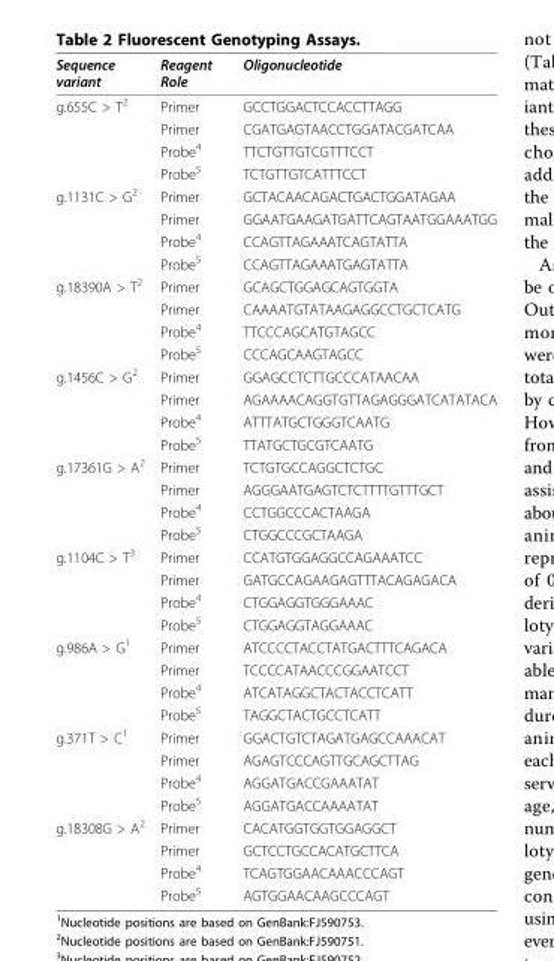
<table><thead><tr><td>Sequence variant</td><td>Reagent Role</td><td>Oligonucleotide</td></tr></thead><tbody><tr><td rowspan="4">g.655C &gt; T<sup>2</sup></td><td>Primer</td><td>GCCTGGACTCCACCTTAGG</td></tr><tr><td>Primer</td><td>CGATGAGTAACCTGGATACGATCAA</td></tr><tr><td>Probe<sup>4</sup></td><td>TTCTGTTGTCGTTTCCT</td></tr><tr><td>Probe<sup>5</sup></td><td>TCTGTTGTCATTTCCT</td></tr><tr><td rowspan="4">g.1131C &gt; G<sup>2</sup></td><td>Primer</td><td>GCTACAACAGACTGACTGGATAGAA</td></tr><tr><td>Primer</td><td>GGAATGAAGATGATTCAGTAATGGAAATGG</td></tr><tr><td>Probe<sup>4</sup></td><td>CCAGTTAGAAATCAGTATTA</td></tr><tr><td>Probe<sup>5</sup></td><td>CCAGTTAGAAATGAGTATTA</td></tr><tr><td rowspan="4">g.18390A &gt; T<sup>2</sup></td><td>Primer</td><td>GCAGCTGGAGCAGTGGTA</td></tr><tr><td>Primer</td><td>CAAAATGTATAAGAGGCCTGCTCATG</td></tr><tr><td>Probe<sup>4</sup></td><td>TTCCCAGCATGTAGCC</td></tr><tr><td>Probe<sup>5</sup></td><td>CCCAGCAAGTAGCC</td></tr><tr><td rowspan="4">g.1456C &gt; G<sup>2</sup></td><td>Primer</td><td>GGAGCCTCTTGCCCATAACAA</td></tr><tr><td>Primer</td><td>AGAAAACAGGTGTTAGAGGGATCATATACA</td></tr><tr><td>Probe<sup>4</sup></td><td>ATTTATGCTGGGTCAATG</td></tr><tr><td>Probe<sup>5</sup></td><td>TTATGCTGCGTCAATG</td></tr><tr><td rowspan="4">g.17361G &gt; A<sup>2</sup></td><td>Primer</td><td>TCTGTGCCAGGCTCTGC</td></tr><tr><td>Primer</td><td>AGGGAATGAGTCTCTTTTGTTTGCT</td></tr><tr><td>Probe<sup>4</sup></td><td>CCTGGCCCACTAAGA</td></tr><tr><td>Probe<sup>5</sup></td><td>CTGGCCCGCTAAGA</td></tr><tr><td rowspan="4">g.1104C &gt; T<sup>3</sup></td><td>Primer</td><td>CCATGTGGAGGCCAGAAATCC</td></tr><tr><td>Primer</td><td>GATGCCAGAAGAGTTTACAGAGACA</td></tr><tr><td>Probe<sup>4</sup></td><td>CTGGAGGTGGGAAAC</td></tr><tr><td>Probe<sup>5</sup></td><td>CTGGAGGTAGGAAAC</td></tr><tr><td rowspan="4">g.986A &gt; G<sup>1</sup></td><td>Primer</td><td>ATCCCCTACCTATGACTTTCAGACA</td></tr><tr><td>Primer</td><td>TCCCCATAACCCGGAATCCT</td></tr><tr><td>Probe<sup>4</sup></td><td>ATCATAGGCTACTACCTCATT</td></tr><tr><td>Probe<sup>5</sup></td><td>TAGGCTACTGCCTCATT</td></tr><tr><td rowspan="4">g.371T &gt; C<sup>1</sup></td><td>Primer</td><td>GGACTGTCTAGATGAGCCAAACAT</td></tr><tr><td>Primer</td><td>AGAGTCCCAGTTGCAGCTTAG</td></tr><tr><td>Probe<sup>4</sup></td><td>AGGATGACCGAAATAT</td></tr><tr><td>Probe<sup>5</sup></td><td>AGGATGACCAAAATAT</td></tr><tr><td rowspan="4">g.18308G &gt; A<sup>2</sup></td><td>Primer</td><td>CACATGGTGGTGGAGGCT</td></tr><tr><td>Primer</td><td>GCTCCTGCCACATGCTTCA</td></tr><tr><td>Probe<sup>4</sup></td><td>TCAGTGGAACAAACCCAGT</td></tr><tr><td>Probe<sup>5</sup></td><td>AGTGGAACAAGCCCAGT</td></tr></tbody></table>